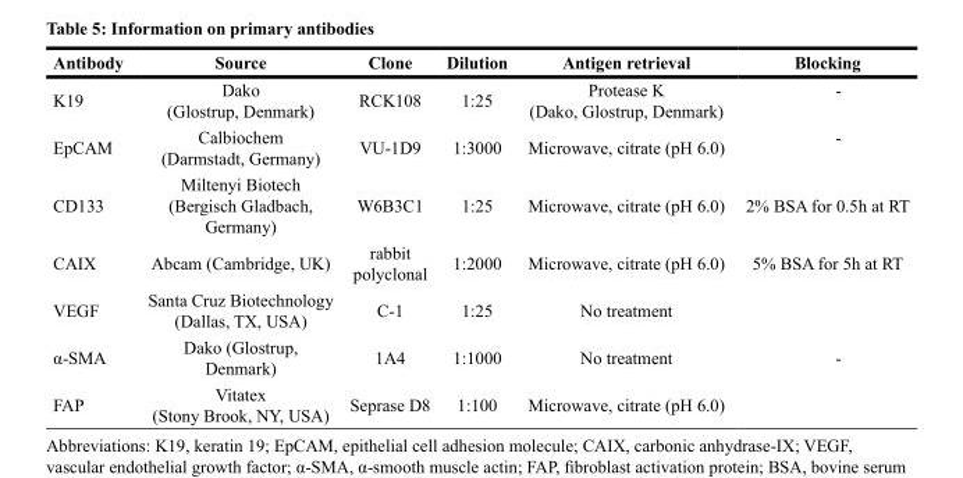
<table><thead><tr><td>Antibody</td><td>Source</td><td>Clone</td><td>Dilution</td><td>Antigen retrieval</td><td>Blocking</td></tr></thead><tbody><tr><td>K19</td><td>Dako (Glostrup, Denmark)</td><td>RCK108</td><td>1:25</td><td>Protease K (Dako, Glostrup, Denmark)</td><td>-</td></tr><tr><td>EpCAM</td><td>Calbiochem (Darmstadt, Germany)</td><td>VU-1D9</td><td>1:3000</td><td>Microwave, citrate (pH 6.0)</td><td>-</td></tr><tr><td>CD133</td><td>Miltenyi Biotech (Bergisch Gladbach, Germany)</td><td>W6B3C1</td><td>1:25</td><td>Microwave, citrate (pH 6.0)</td><td>2% BSA for 0.5h at RT</td></tr><tr><td>CAIX</td><td>Abcam (Cambridge, UK)</td><td>rabbit polyclonal</td><td>1:2000</td><td>Microwave, citrate (pH 6.0)</td><td>5% BSA for 5h at RT</td></tr><tr><td>VEGF</td><td>Santa Cruz Biotechnology (Dallas, TX, USA)</td><td>C-1</td><td>1:25</td><td>No treatment</td><td></td></tr><tr><td>α-SMA</td><td>Dako (Glostrup, Denmark)</td><td>1A4</td><td>1:1000</td><td>No treatment</td><td>-</td></tr><tr><td>FAP</td><td>Vitatex (Stony Brook, NY, USA)</td><td>Seprase D8</td><td>1:100</td><td>Microwave, citrate (pH 6.0)</td><td></td></tr></tbody></table>